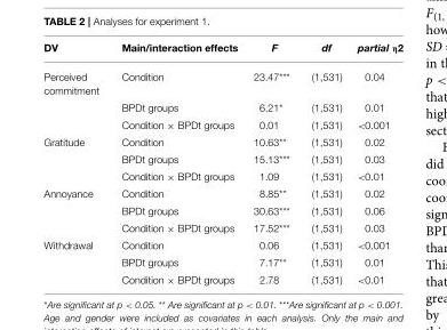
<table><thead><tr><td>DV</td><td>Main/interaction effects</td><td>F</td><td>df</td><td>partial η2</td></tr></thead><tbody><tr><td rowspan="3">Perceived commitment</td><td>Condition</td><td>23.47***</td><td>(1,531)</td><td>0.04</td></tr><tr><td>BPDt groups</td><td>6.21*</td><td>(1,531)</td><td>0.01</td></tr><tr><td>Condition × BPDt groups</td><td>0.01</td><td>(1,531)</td><td>&lt;0.001</td></tr><tr><td rowspan="3">Gratitude</td><td>Condition</td><td>10.63**</td><td>(1,531)</td><td>0.02</td></tr><tr><td>BPDt groups</td><td>15.13***</td><td>(1,531)</td><td>0.03</td></tr><tr><td>Condition × BPDt groups</td><td>1.09</td><td>(1,531)</td><td>&lt;0.01</td></tr><tr><td rowspan="3">Annoyance</td><td>Condition</td><td>8.85**</td><td>(1,531)</td><td>0.02</td></tr><tr><td>BPDt groups</td><td>30.63***</td><td>(1,531)</td><td>0.06</td></tr><tr><td>Condition × BPDt groups</td><td>17.52***</td><td>(1,531)</td><td>0.03</td></tr><tr><td rowspan="3">Withdrawal</td><td>Condition</td><td>0.06</td><td>(1,531)</td><td>&lt;0.001</td></tr><tr><td>BPDt groups</td><td>7.17**</td><td>(1,531)</td><td>0.01</td></tr><tr><td>Condition × BPDt groups</td><td>2.78</td><td>(1,531)</td><td>&lt;0.01</td></tr></tbody></table>